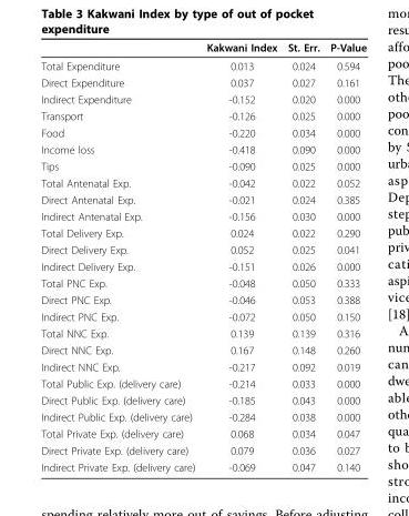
<table><thead><tr><td></td><td>Kakwani Index</td><td>St. Err.</td><td>P-Value</td></tr></thead><tbody><tr><td>Total Expenditure</td><td>0.013</td><td>0.024</td><td>0.594</td></tr><tr><td>Direct Expenditure</td><td>0.037</td><td>0.027</td><td>0.161</td></tr><tr><td>Indirect Expenditure</td><td>-0.152</td><td>0.020</td><td>0.000</td></tr><tr><td>Transport</td><td>-0.126</td><td>0.025</td><td>0.000</td></tr><tr><td>Food</td><td>-0.220</td><td>0.034</td><td>0.000</td></tr><tr><td>Income loss</td><td>-0.418</td><td>0.090</td><td>0.000</td></tr><tr><td>Tips</td><td>-0.090</td><td>0.025</td><td>0.000</td></tr><tr><td>Total Antenatal Exp.</td><td>-0.042</td><td>0.022</td><td>0.052</td></tr><tr><td>Direct Antenatal Exp.</td><td>-0.021</td><td>0.024</td><td>0.385</td></tr><tr><td>Indirect Antenatal Exp.</td><td>-0.156</td><td>0.030</td><td>0.000</td></tr><tr><td>Total Delivery Exp.</td><td>0.024</td><td>0.022</td><td>0.290</td></tr><tr><td>Direct Delivery Exp.</td><td>0.052</td><td>0.025</td><td>0.041</td></tr><tr><td>Indirect Delivery Exp.</td><td>-0.151</td><td>0.026</td><td>0.000</td></tr><tr><td>Total PNC Exp.</td><td>-0.048</td><td>0.050</td><td>0.333</td></tr><tr><td>Direct PNC Exp.</td><td>-0.046</td><td>0.053</td><td>0.388</td></tr><tr><td>Indirect PNC Exp.</td><td>-0.072</td><td>0.050</td><td>0.150</td></tr><tr><td>Total NNC Exp.</td><td>0.139</td><td>0.139</td><td>0.316</td></tr><tr><td>Direct NNC Exp.</td><td>0.167</td><td>0.148</td><td>0.260</td></tr><tr><td>Indirect NNC Exp.</td><td>-0.217</td><td>0.092</td><td>0.019</td></tr><tr><td>Total Public Exp. (delivery care)</td><td>-0.214</td><td>0.033</td><td>0.000</td></tr><tr><td>Direct Public Exp. (delivery care)</td><td>-0.185</td><td>0.043</td><td>0.000</td></tr><tr><td>Indirect Public Exp. (delivery care)</td><td>-0.284</td><td>0.038</td><td>0.000</td></tr><tr><td>Total Private Exp. (delivery care)</td><td>0.068</td><td>0.034</td><td>0.047</td></tr><tr><td>Direct Private Exp. (delivery care)</td><td>0.079</td><td>0.036</td><td>0.027</td></tr><tr><td>Indirect Private Exp. (delivery care)</td><td>-0.069</td><td>0.047</td><td>0.140</td></tr></tbody></table>